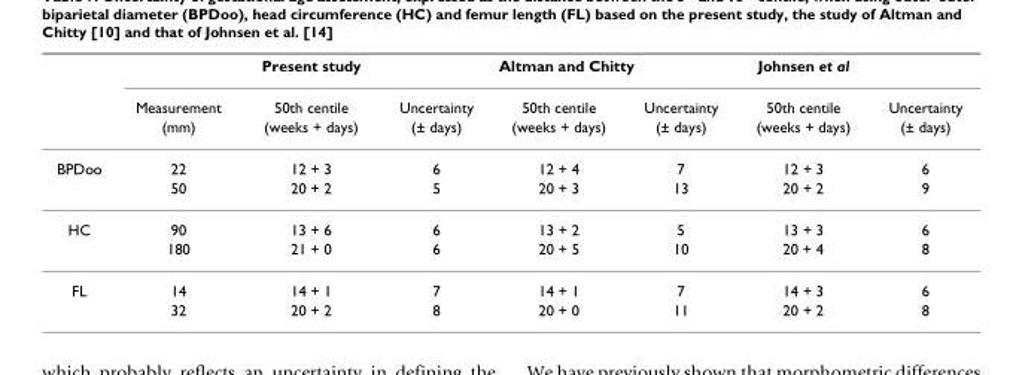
<table><thead><tr><td rowspan="3"></td><td rowspan="3">Measurement (mm)</td><td rowspan="3">Present study 50th centile (weeks + days)</td><td rowspan="3">Uncertainty (± days)</td><td colspan="2">Altman and Chitty</td><td rowspan="3">Johnsen et al 50th centile (weeks + days)</td><td rowspan="3">Uncertainty (± days)</td></tr><tr><td rowspan="2">50th centile (weeks + days)</td><td rowspan="2">Uncertainty (± days)</td></tr><tr></tr></thead><tbody><tr><td rowspan="2">BPDoo</td><td>22</td><td>12 + 3</td><td>6</td><td>12 + 4</td><td>7</td><td>12 + 3</td><td>6</td></tr><tr><td>50</td><td>20 + 2</td><td>5</td><td>20 + 3</td><td>13</td><td>20 + 2</td><td>9</td></tr><tr><td rowspan="2">HC</td><td>90</td><td>13 + 6</td><td>6</td><td>13 + 2</td><td>5</td><td>13 + 3</td><td>6</td></tr><tr><td>180</td><td>21 + 0</td><td>6</td><td>20 + 5</td><td>10</td><td>20 + 4</td><td>8</td></tr><tr><td rowspan="2">FL</td><td>14</td><td>14 + 1</td><td>7</td><td>14 + 1</td><td>7</td><td>14 + 3</td><td>6</td></tr><tr><td>32</td><td>20 + 2</td><td>8</td><td>20 + 0</td><td>11</td><td>20 + 2</td><td>8</td></tr></tbody></table>